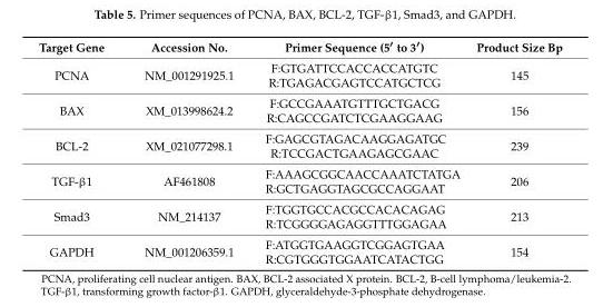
<table><thead><tr><td>Target Gene</td><td>Accession No.</td><td>Primer Sequence (5′ to 3′)</td><td>Product Size Bp</td></tr></thead><tbody><tr><td>PCNA</td><td>NM_001291925.1</td><td>F:GTGATTCCACCACCATGTC R:TGAGACGAGTCCATGCTCG</td><td>145</td></tr><tr><td>BAX</td><td>XM_013998624.2</td><td>F:GCCGAAATGTTTGCTGACG R:CAGCCGATCTCGAAGGAAG</td><td>156</td></tr><tr><td>BCL-2</td><td>XM_021077298.1</td><td>F:GAGCGTAGACAAGGAGATGC R:TCCGACTGAAGAGCGAAC</td><td>239</td></tr><tr><td>TGF-β1</td><td>AF461808</td><td>F:AAAGCGGCAACCAAATCTATGA R:GCTGAGGTAGCGCCAGGAAT</td><td>206</td></tr><tr><td>Smad3</td><td>NM_214137</td><td>F:TGGTGCCACGCCACACAGAG R:TCGGGGAGAGGTTTGGAGAA</td><td>213</td></tr><tr><td>GAPDH</td><td>NM_001206359.1</td><td>F:ATGGTGAAGGTCGGAGTGAA R:CGTGGGTGGAATCATACTGG</td><td>154</td></tr></tbody></table>